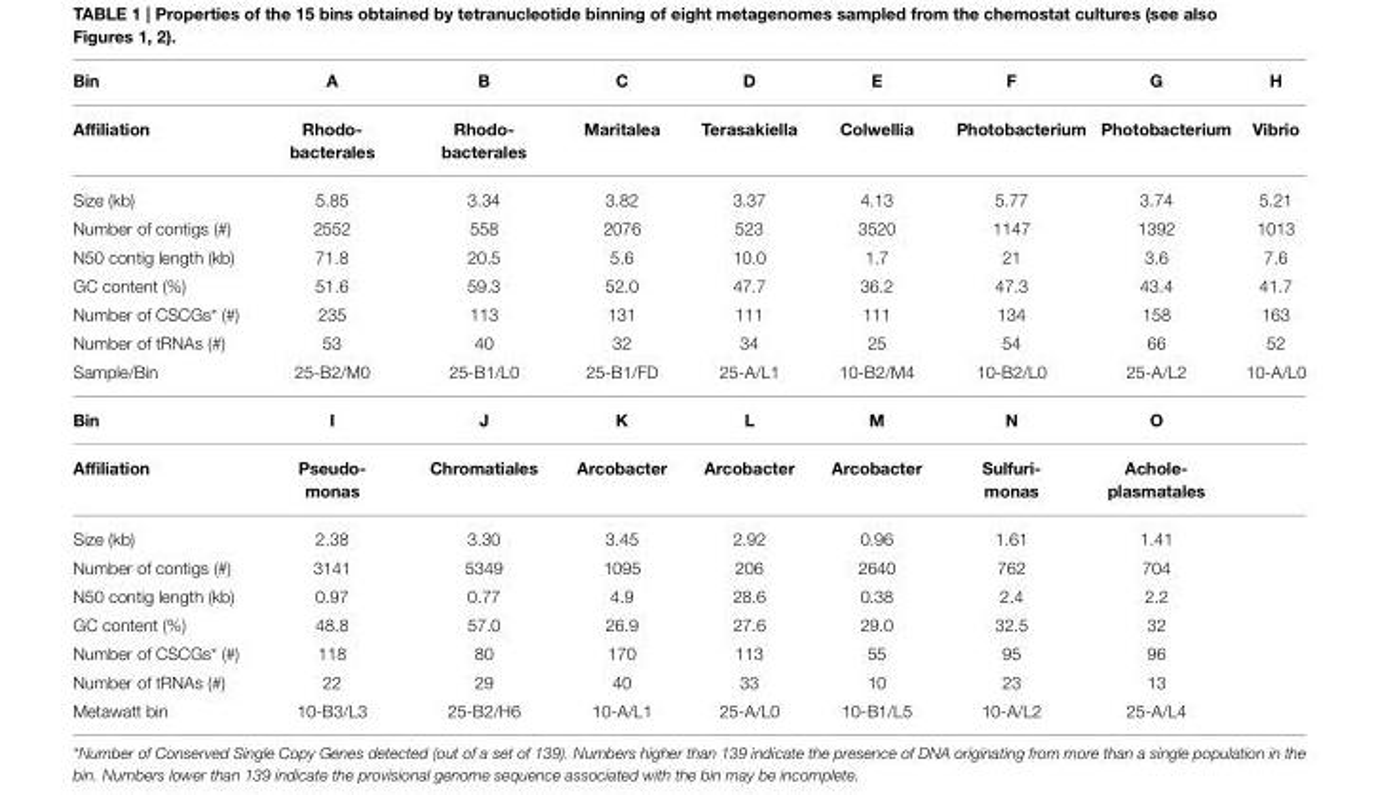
<table><thead><tr><td rowspan="2">Bin Affiliation</td><td rowspan="2">A Rhodo- bacterales</td><td rowspan="2">B Rhodo- bacterales</td><td rowspan="2">C Maritalea</td><td rowspan="2">D Terasakiella</td><td rowspan="2">E Colwellia</td><td rowspan="2">F Photobacterium</td><td rowspan="2">G Photobacterium</td><td rowspan="2">H Vibrio</td></tr><tr></tr></thead><tbody><tr><td>Size (kb)</td><td>5.85</td><td>3.34</td><td>3.82</td><td>3.37</td><td>4.13</td><td>5.77</td><td>3.74</td><td>5.21</td></tr><tr><td>Number of contigs (#)</td><td>2552</td><td>558</td><td>2076</td><td>523</td><td>3520</td><td>1147</td><td>1392</td><td>1013</td></tr><tr><td>N50 contig length (kb)</td><td>71.8</td><td>20.5</td><td>5.6</td><td>10.0</td><td>1.7</td><td>21</td><td>3.6</td><td>7.6</td></tr><tr><td>GC content (%)</td><td>51.6</td><td>59.3</td><td>52.0</td><td>47.7</td><td>36.2</td><td>47.3</td><td>43.4</td><td>41.7</td></tr><tr><td>Number of CSCGs* (#)</td><td>235</td><td>113</td><td>131</td><td>111</td><td>111</td><td>134</td><td>158</td><td>163</td></tr><tr><td>Number of tRNAs (#)</td><td>53</td><td>40</td><td>32</td><td>34</td><td>25</td><td>54</td><td>66</td><td>52</td></tr><tr><td>Sample/Bin</td><td>25-B2/M0</td><td>25-B1/L0</td><td>25-B1/FD</td><td>25-A/L1</td><td>10-B2/M4</td><td>10-B2/L0</td><td>25-A/L2</td><td>10-A/L0</td></tr><tr><td>Bin</td><td>I</td><td>J</td><td>K</td><td>L</td><td>M</td><td>N</td><td>O</td><td></td></tr><tr><td>Affiliation</td><td>Pseudo- monas</td><td>Chromatiales</td><td>Arcobacter</td><td>Arcobacter</td><td>Arcobacter</td><td>Sulfuri- monas</td><td>Achole- plasmatales</td><td></td></tr><tr><td>Size (kb)</td><td>2.38</td><td>3.30</td><td>3.45</td><td>2.92</td><td>0.96</td><td>1.61</td><td>1.41</td><td></td></tr><tr><td>Number of contigs (#)</td><td>3141</td><td>5349</td><td>1095</td><td>206</td><td>2640</td><td>762</td><td>704</td><td></td></tr><tr><td>N50 contig length (kb)</td><td>0.97</td><td>0.77</td><td>4.9</td><td>28.6</td><td>0.38</td><td>2.4</td><td>2.2</td><td></td></tr><tr><td>GC content (%)</td><td>48.8</td><td>57.0</td><td>26.9</td><td>27.6</td><td>29.0</td><td>32.5</td><td>32</td><td></td></tr><tr><td>Number of CSCGs* (#)</td><td>118</td><td>80</td><td>170</td><td>113</td><td>55</td><td>95</td><td>96</td><td></td></tr><tr><td>Number of tRNAs (#)</td><td>22</td><td>29</td><td>40</td><td>33</td><td>10</td><td>23</td><td>13</td><td></td></tr><tr><td>Metawatt bin</td><td>10-B3/L3</td><td>25-B2/H6</td><td>10-A/L1</td><td>25-A/L0</td><td>10-B1/L5</td><td>10-A/L2</td><td>25-A/L4</td><td></td></tr></tbody></table>